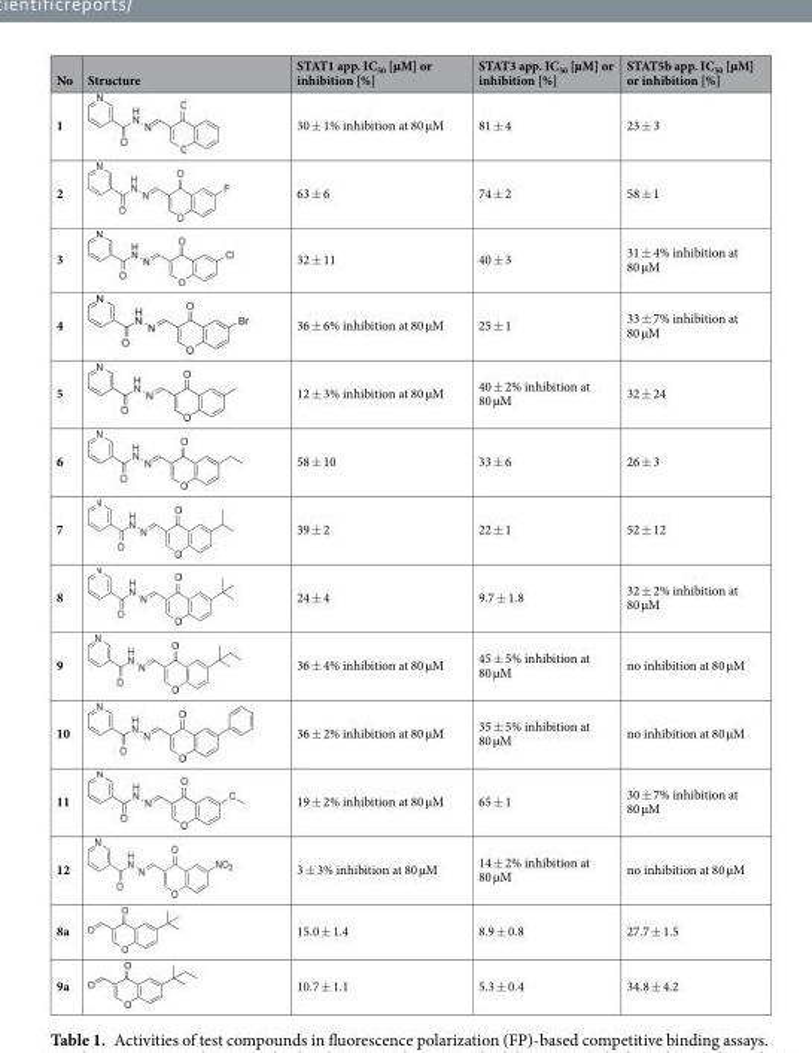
<table><thead><tr><td>No</td><td>Structure</td><td>STAT1 app. IC<sub>50</sub> [µM] or inhibition [%]</td><td>STAT3 app. IC<sub>50</sub> [µM] or inhibition [%]</td><td>STAT5b app. IC<sub>50</sub> [µM] or inhibition [%]</td></tr></thead><tbody><tr><td>1</td><td></td><td>30 ± 1% inhibition at 80 µM</td><td>81 ± 4</td><td>23 ± 3</td></tr><tr><td>2</td><td></td><td>63 ± 6</td><td>74 ± 2</td><td>58 ± 1</td></tr><tr><td>3</td><td></td><td>32 ± 11</td><td>40 ± 3</td><td>31 ± 4% inhibition at 80 µM</td></tr><tr><td>4</td><td></td><td>36 ± 6% inhibition at 80 µM</td><td>25 ± 1</td><td>33 ± 7% inhibition at 80 µM</td></tr><tr><td>5</td><td></td><td>12 ± 3% inhibition at 80 µM</td><td>40 ± 2% inhibition at 80 µM</td><td>32 ± 24</td></tr><tr><td>6</td><td></td><td>58 ± 10</td><td>33 ± 6</td><td>26 ± 3</td></tr><tr><td>7</td><td></td><td>39 ± 2</td><td>22 ± 1</td><td>52 ± 12</td></tr><tr><td>8</td><td></td><td>24 ± 4</td><td>9.7 ± 1.8</td><td>32 ± 2% inhibition at 80 µM</td></tr><tr><td>9</td><td></td><td>36 ± 4% inhibition at 80 µM</td><td>45 ± 5% inhibition at 80 µM</td><td>no inhibition at 80 µM</td></tr><tr><td>10</td><td></td><td>36 ± 2% inhibition at 80 µM</td><td>35 ± 5% inhibition at 80 µM</td><td>no inhibition at 80 µM</td></tr><tr><td>11</td><td></td><td>19 ± 2% inhibition at 80 µM</td><td>65 ± 1</td><td>30 ± 7% inhibition at 80 µM</td></tr><tr><td>12</td><td></td><td>3 ± 3% inhibition at 80 µM</td><td>14 ± 2% inhibition at 80 µM</td><td>no inhibition at 80 µM</td></tr><tr><td>8a</td><td></td><td>15.0 ± 1.4</td><td>8.9 ± 0.8</td><td>27.7 ± 1.5</td></tr><tr><td>9a</td><td></td><td>10.7 ± 1.1</td><td>5.3 ± 0.4</td><td>34.8 ± 4.2</td></tr></tbody></table>